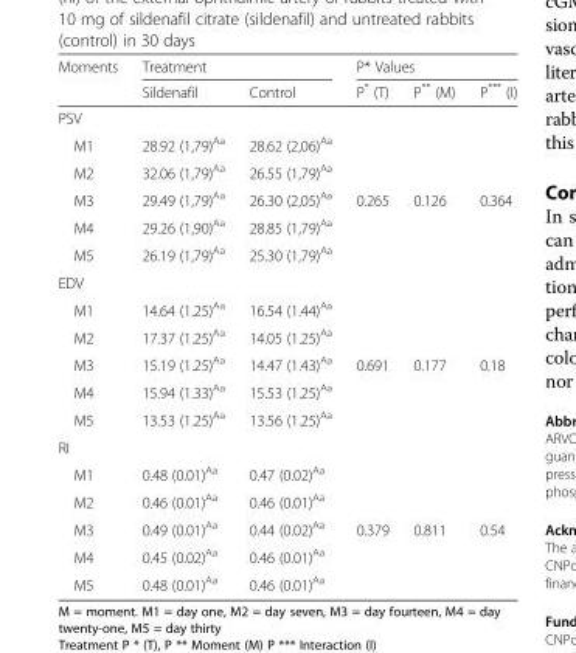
<table><thead><tr><td rowspan="2">Moments</td><td colspan="2">Treatment</td><td colspan="3">P* Values</td></tr><tr><td>Sildenafil</td><td>Control</td><td>P* (T)</td><td>P** (M)</td><td>P*** (I)</td></tr></thead><tbody><tr><td colspan="6">PSV</td></tr><tr><td>M1</td><td>28.92 (1,79)<sup>Aa</sup></td><td>28.62 (2,06)<sup>Aa</sup></td><td></td><td></td><td></td></tr><tr><td>M2</td><td>32.06 (1,79)<sup>Aa</sup></td><td>26.55 (1,79)<sup>Aa</sup></td><td></td><td></td><td></td></tr><tr><td>M3</td><td>29.49 (1,79)<sup>Aa</sup></td><td>26.30 (2,05)<sup>Aa</sup></td><td>0.265</td><td>0.126</td><td>0.364</td></tr><tr><td>M4</td><td>29.26 (1,90)<sup>Aa</sup></td><td>28.85 (1,79)<sup>Aa</sup></td><td></td><td></td><td></td></tr><tr><td>M5</td><td>26.19 (1,79)<sup>Aa</sup></td><td>25.30 (1,79)<sup>Aa</sup></td><td></td><td></td><td></td></tr><tr><td colspan="6">EDV</td></tr><tr><td>M1</td><td>14.64 (1.25)<sup>Aa</sup></td><td>16.54 (1.44)<sup>Aa</sup></td><td></td><td></td><td></td></tr><tr><td>M2</td><td>17.37 (1.25)<sup>Aa</sup></td><td>14.05 (1.25)<sup>Aa</sup></td><td></td><td></td><td></td></tr><tr><td>M3</td><td>15.19 (1.25)<sup>Aa</sup></td><td>14.47 (1.43)<sup>Aa</sup></td><td>0.691</td><td>0.177</td><td>0.18</td></tr><tr><td>M4</td><td>15.94 (1.33)<sup>Aa</sup></td><td>15.53 (1.25)<sup>Aa</sup></td><td></td><td></td><td></td></tr><tr><td>M5</td><td>13.53 (1.25)<sup>Aa</sup></td><td>13.56 (1.25)<sup>Aa</sup></td><td></td><td></td><td></td></tr><tr><td colspan="6">RI</td></tr><tr><td>M1</td><td>0.48 (0.01)<sup>Aa</sup></td><td>0.47 (0.02)<sup>Aa</sup></td><td></td><td></td><td></td></tr><tr><td>M2</td><td>0.46 (0.01)<sup>Aa</sup></td><td>0.46 (0.01)<sup>Aa</sup></td><td></td><td></td><td></td></tr><tr><td>M3</td><td>0.49 (0.01)<sup>Aa</sup></td><td>0.44 (0.02)<sup>Aa</sup></td><td>0.379</td><td>0.811</td><td>0.54</td></tr><tr><td>M4</td><td>0.45 (0.02)<sup>Aa</sup></td><td>0.46 (0.01)<sup>Aa</sup></td><td></td><td></td><td></td></tr><tr><td>M5</td><td>0.48 (0.01)<sup>Aa</sup></td><td>0.46 (0.01)<sup>Aa</sup></td><td></td><td></td><td></td></tr></tbody></table>